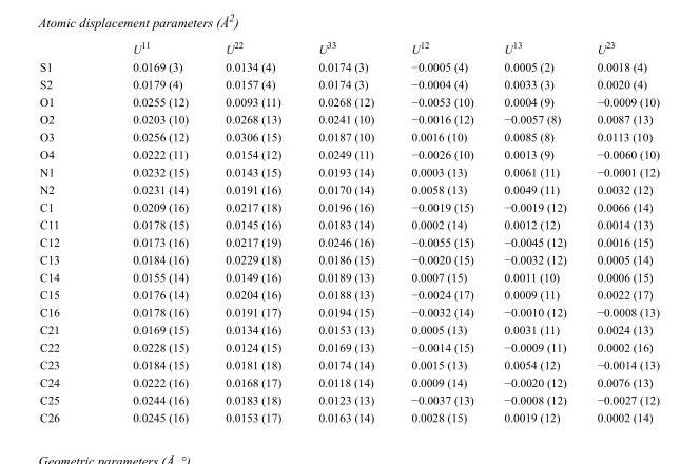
<table><thead><tr><td></td><td>U<sup>11</sup></td><td>U<sup>22</sup></td><td>U<sup>33</sup></td><td>U<sup>12</sup></td><td>U<sup>13</sup></td><td>U<sup>23</sup></td></tr></thead><tbody><tr><td>S1</td><td>0.0169 (3)</td><td>0.0134 (4)</td><td>0.0174 (3)</td><td>−0.0005 (4)</td><td>0.0005 (2)</td><td>0.0018 (4)</td></tr><tr><td>S2</td><td>0.0179 (4)</td><td>0.0157 (4)</td><td>0.0174 (3)</td><td>−0.0004 (4)</td><td>0.0033 (3)</td><td>0.0020 (4)</td></tr><tr><td>O1</td><td>0.0255 (12)</td><td>0.0093 (11)</td><td>0.0268 (12)</td><td>−0.0053 (10)</td><td>0.0004 (9)</td><td>−0.0009 (10)</td></tr><tr><td>O2</td><td>0.0203 (10)</td><td>0.0268 (13)</td><td>0.0241 (10)</td><td>−0.0016 (12)</td><td>−0.0057 (8)</td><td>0.0087 (13)</td></tr><tr><td>O3</td><td>0.0256 (12)</td><td>0.0306 (15)</td><td>0.0187 (10)</td><td>0.0016 (10)</td><td>0.0085 (8)</td><td>0.0113 (10)</td></tr><tr><td>O4</td><td>0.0222 (11)</td><td>0.0154 (12)</td><td>0.0249 (11)</td><td>−0.0026 (10)</td><td>0.0013 (9)</td><td>−0.0060 (10)</td></tr><tr><td>N1</td><td>0.0232 (15)</td><td>0.0143 (15)</td><td>0.0193 (14)</td><td>0.0003 (13)</td><td>0.0061 (11)</td><td>−0.0001 (12)</td></tr><tr><td>N2</td><td>0.0231 (14)</td><td>0.0191 (16)</td><td>0.0170 (14)</td><td>0.0058 (13)</td><td>0.0049 (11)</td><td>0.0032 (12)</td></tr><tr><td>C1</td><td>0.0209 (16)</td><td>0.0217 (18)</td><td>0.0196 (16)</td><td>−0.0019 (15)</td><td>−0.0019 (12)</td><td>0.0066 (14)</td></tr><tr><td>C11</td><td>0.0178 (15)</td><td>0.0145 (16)</td><td>0.0183 (14)</td><td>0.0002 (14)</td><td>0.0012 (12)</td><td>0.0014 (13)</td></tr><tr><td>C12</td><td>0.0173 (16)</td><td>0.0217 (19)</td><td>0.0246 (16)</td><td>−0.0055 (15)</td><td>−0.0045 (12)</td><td>0.0016 (15)</td></tr><tr><td>C13</td><td>0.0184 (16)</td><td>0.0229 (18)</td><td>0.0186 (15)</td><td>−0.0020 (15)</td><td>−0.0032 (12)</td><td>0.0005 (14)</td></tr><tr><td>C14</td><td>0.0155 (14)</td><td>0.0149 (16)</td><td>0.0189 (13)</td><td>0.0007 (15)</td><td>0.0011 (10)</td><td>0.0006 (15)</td></tr><tr><td>C15</td><td>0.0176 (14)</td><td>0.0204 (16)</td><td>0.0188 (13)</td><td>−0.0024 (17)</td><td>0.0009 (11)</td><td>0.0022 (17)</td></tr><tr><td>C16</td><td>0.0178 (16)</td><td>0.0191 (17)</td><td>0.0194 (15)</td><td>−0.0032 (14)</td><td>−0.0010 (12)</td><td>−0.0008 (13)</td></tr><tr><td>C21</td><td>0.0169 (15)</td><td>0.0134 (16)</td><td>0.0153 (13)</td><td>0.0005 (13)</td><td>0.0031 (11)</td><td>0.0024 (13)</td></tr><tr><td>C22</td><td>0.0228 (15)</td><td>0.0124 (15)</td><td>0.0169 (13)</td><td>−0.0014 (15)</td><td>−0.0009 (11)</td><td>0.0002 (16)</td></tr><tr><td>C23</td><td>0.0184 (15)</td><td>0.0181 (18)</td><td>0.0174 (14)</td><td>0.0015 (13)</td><td>0.0054 (12)</td><td>−0.0014 (13)</td></tr><tr><td>C24</td><td>0.0222 (16)</td><td>0.0168 (17)</td><td>0.0118 (14)</td><td>0.0009 (14)</td><td>−0.0020 (12)</td><td>0.0076 (13)</td></tr><tr><td>C25</td><td>0.0244 (16)</td><td>0.0183 (18)</td><td>0.0123 (13)</td><td>−0.0037 (13)</td><td>−0.0008 (12)</td><td>−0.0027 (12)</td></tr><tr><td>C26</td><td>0.0245 (16)</td><td>0.0153 (17)</td><td>0.0163 (14)</td><td>0.0028 (15)</td><td>0.0019 (12)</td><td>0.0002 (14)</td></tr></tbody></table>